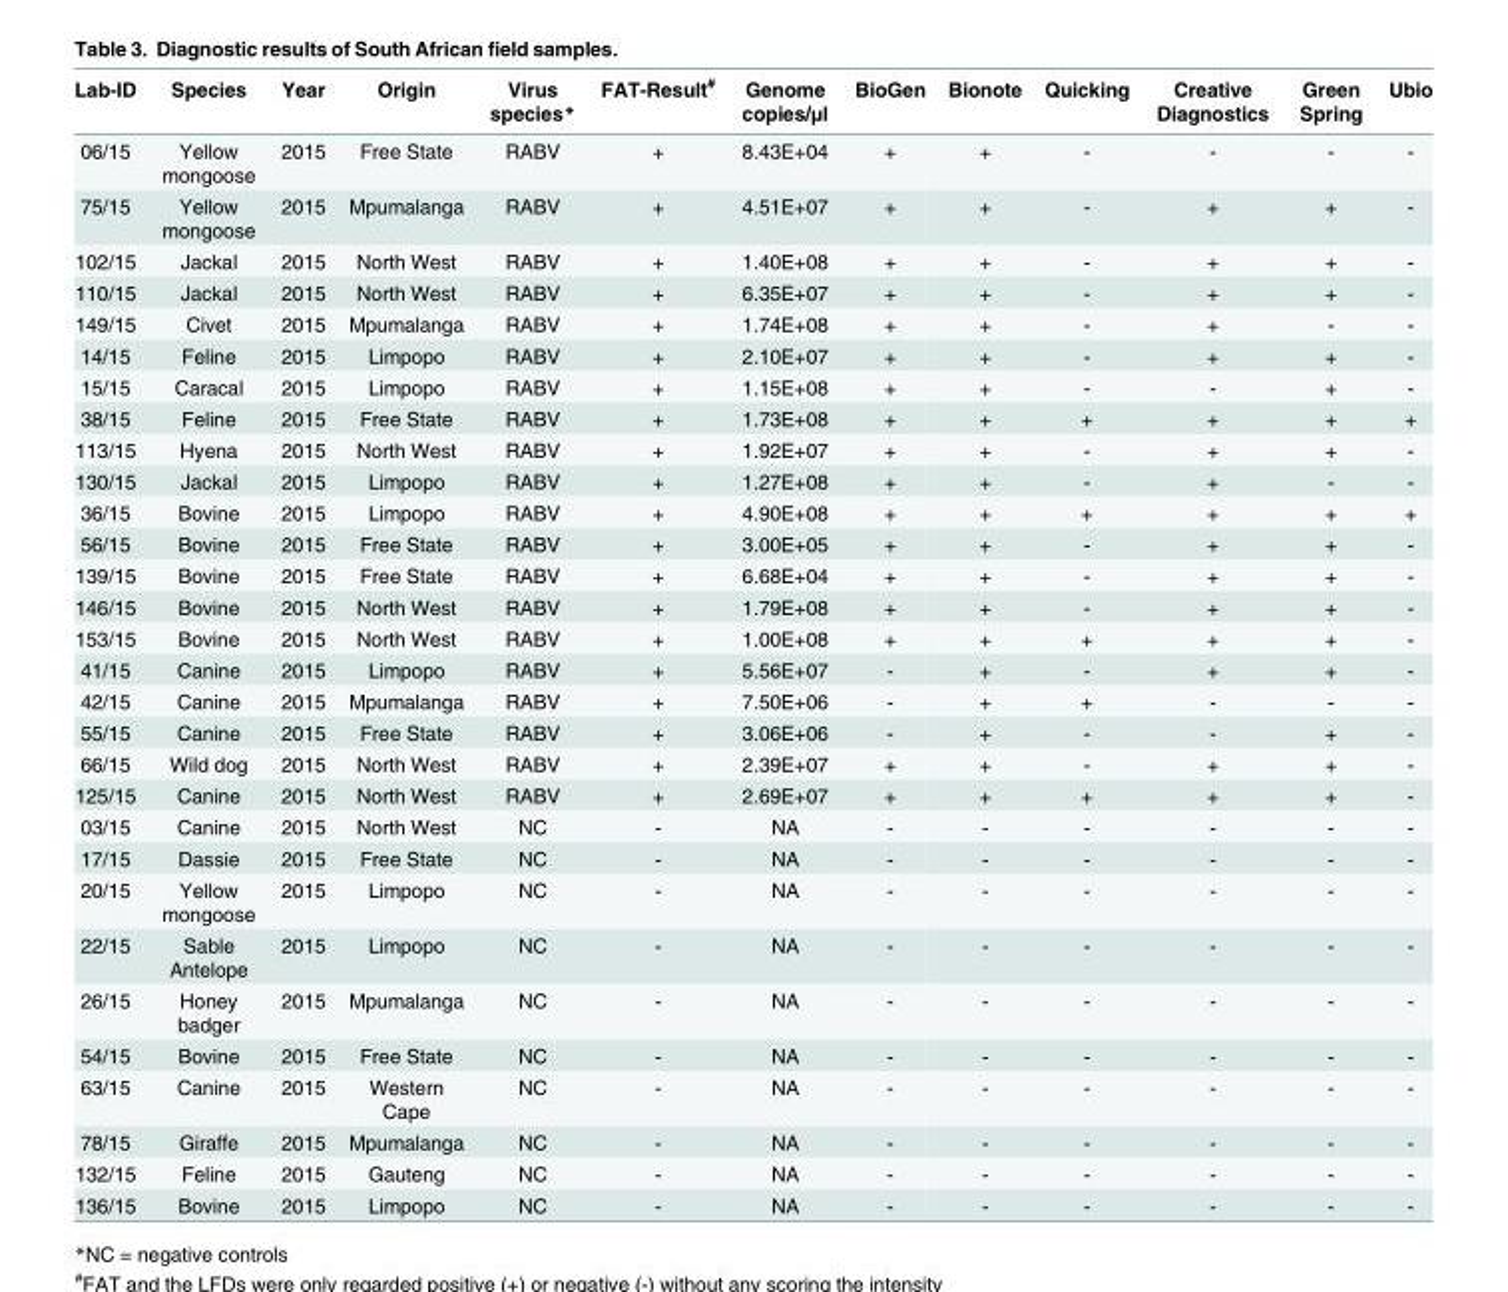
<table><thead><tr><td>Lab-ID</td><td>Species</td><td>Year</td><td>Origin</td><td>Virus species*</td><td>FAT-Result<sup>#</sup></td><td>Genome copies/μl</td><td>BioGen</td><td>Bionote</td><td>Quicking</td><td>Creative Diagnostics</td><td>Green Spring</td><td>Ubio</td></tr></thead><tbody><tr><td>06/15</td><td>Yellow mongoose</td><td>2015</td><td>Free State</td><td>RABV</td><td>+</td><td>8.43E+04</td><td>+</td><td>+</td><td>-</td><td>-</td><td>-</td><td>-</td></tr><tr><td>75/15</td><td>Yellow mongoose</td><td>2015</td><td>Mpumalanga</td><td>RABV</td><td>+</td><td>4.51E+07</td><td>+</td><td>+</td><td>-</td><td>+</td><td>+</td><td>-</td></tr><tr><td>102/15</td><td>Jackal</td><td>2015</td><td>North West</td><td>RABV</td><td>+</td><td>1.40E+08</td><td>+</td><td>+</td><td>-</td><td>+</td><td>+</td><td>-</td></tr><tr><td>110/15</td><td>Jackal</td><td>2015</td><td>North West</td><td>RABV</td><td>+</td><td>6.35E+07</td><td>+</td><td>+</td><td>-</td><td>+</td><td>+</td><td>-</td></tr><tr><td>149/15</td><td>Civet</td><td>2015</td><td>Mpumalanga</td><td>RABV</td><td>+</td><td>1.74E+08</td><td>+</td><td>+</td><td>-</td><td>+</td><td>-</td><td>-</td></tr><tr><td>14/15</td><td>Feline</td><td>2015</td><td>Limpopo</td><td>RABV</td><td>+</td><td>2.10E+07</td><td>+</td><td>+</td><td>-</td><td>+</td><td>+</td><td>-</td></tr><tr><td>15/15</td><td>Caracal</td><td>2015</td><td>Limpopo</td><td>RABV</td><td>+</td><td>1.15E+08</td><td>+</td><td>+</td><td>-</td><td>-</td><td>+</td><td>-</td></tr><tr><td>38/15</td><td>Feline</td><td>2015</td><td>Free State</td><td>RABV</td><td>+</td><td>1.73E+08</td><td>+</td><td>+</td><td>+</td><td>+</td><td>+</td><td>+</td></tr><tr><td>113/15</td><td>Hyena</td><td>2015</td><td>North West</td><td>RABV</td><td>+</td><td>1.92E+07</td><td>+</td><td>+</td><td>-</td><td>+</td><td>+</td><td>-</td></tr><tr><td>130/15</td><td>Jackal</td><td>2015</td><td>Limpopo</td><td>RABV</td><td>+</td><td>1.27E+08</td><td>+</td><td>+</td><td>-</td><td>+</td><td>-</td><td>-</td></tr><tr><td>36/15</td><td>Bovine</td><td>2015</td><td>Limpopo</td><td>RABV</td><td>+</td><td>4.90E+08</td><td>+</td><td>+</td><td>+</td><td>+</td><td>+</td><td>+</td></tr><tr><td>56/15</td><td>Bovine</td><td>2015</td><td>Free State</td><td>RABV</td><td>+</td><td>3.00E+05</td><td>+</td><td>+</td><td>-</td><td>+</td><td>+</td><td>-</td></tr><tr><td>139/15</td><td>Bovine</td><td>2015</td><td>Free State</td><td>RABV</td><td>+</td><td>6.68E+04</td><td>+</td><td>+</td><td>-</td><td>+</td><td>+</td><td>-</td></tr><tr><td>146/15</td><td>Bovine</td><td>2015</td><td>North West</td><td>RABV</td><td>+</td><td>1.79E+08</td><td>+</td><td>+</td><td>-</td><td>+</td><td>+</td><td>-</td></tr><tr><td>153/15</td><td>Bovine</td><td>2015</td><td>North West</td><td>RABV</td><td>+</td><td>1.00E+08</td><td>+</td><td>+</td><td>+</td><td>+</td><td>+</td><td>-</td></tr><tr><td>41/15</td><td>Canine</td><td>2015</td><td>Limpopo</td><td>RABV</td><td>+</td><td>5.56E+07</td><td>-</td><td>+</td><td>-</td><td>+</td><td>+</td><td>-</td></tr><tr><td>42/15</td><td>Canine</td><td>2015</td><td>Mpumalanga</td><td>RABV</td><td>+</td><td>7.50E+06</td><td>-</td><td>+</td><td>+</td><td>-</td><td>-</td><td>-</td></tr><tr><td>55/15</td><td>Canine</td><td>2015</td><td>Free State</td><td>RABV</td><td>+</td><td>3.06E+06</td><td>-</td><td>+</td><td>-</td><td>-</td><td>+</td><td>-</td></tr><tr><td>66/15</td><td>Wild dog</td><td>2015</td><td>North West</td><td>RABV</td><td>+</td><td>2.39E+07</td><td>+</td><td>+</td><td>-</td><td>+</td><td>+</td><td>-</td></tr><tr><td>125/15</td><td>Canine</td><td>2015</td><td>North West</td><td>RABV</td><td>+</td><td>2.69E+07</td><td>+</td><td>+</td><td>+</td><td>+</td><td>+</td><td>-</td></tr><tr><td>03/15</td><td>Canine</td><td>2015</td><td>North West</td><td>NC</td><td>-</td><td>NA</td><td>-</td><td>-</td><td>-</td><td>-</td><td>-</td><td>-</td></tr><tr><td>17/15</td><td>Dassie</td><td>2015</td><td>Free State</td><td>NC</td><td>-</td><td>NA</td><td>-</td><td>-</td><td>-</td><td>-</td><td>-</td><td>-</td></tr><tr><td>20/15</td><td>Yellow mongoose</td><td>2015</td><td>Limpopo</td><td>NC</td><td>-</td><td>NA</td><td>-</td><td>-</td><td>-</td><td>-</td><td>-</td><td>-</td></tr><tr><td>22/15</td><td>Sable Antelope</td><td>2015</td><td>Limpopo</td><td>NC</td><td>-</td><td>NA</td><td>-</td><td>-</td><td>-</td><td>-</td><td>-</td><td>-</td></tr><tr><td>26/15</td><td>Honey badger</td><td>2015</td><td>Mpumalanga</td><td>NC</td><td>-</td><td>NA</td><td>-</td><td>-</td><td>-</td><td>-</td><td>-</td><td>-</td></tr><tr><td>54/15</td><td>Bovine</td><td>2015</td><td>Free State</td><td>NC</td><td>-</td><td>NA</td><td>-</td><td>-</td><td>-</td><td>-</td><td>-</td><td>-</td></tr><tr><td>63/15</td><td>Canine</td><td>2015</td><td>Western Cape</td><td>NC</td><td>-</td><td>NA</td><td>-</td><td>-</td><td>-</td><td>-</td><td>-</td><td>-</td></tr><tr><td>78/15</td><td>Giraffe</td><td>2015</td><td>Mpumalanga</td><td>NC</td><td>-</td><td>NA</td><td>-</td><td>-</td><td>-</td><td>-</td><td>-</td><td>-</td></tr><tr><td>132/15</td><td>Feline</td><td>2015</td><td>Gauteng</td><td>NC</td><td>-</td><td>NA</td><td>-</td><td>-</td><td>-</td><td>-</td><td>-</td><td>-</td></tr><tr><td>136/15</td><td>Bovine</td><td>2015</td><td>Limpopo</td><td>NC</td><td>-</td><td>NA</td><td>-</td><td>-</td><td>-</td><td>-</td><td>-</td><td>-</td></tr></tbody></table>